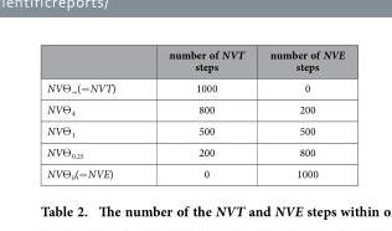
<table><thead><tr><td></td><td>number of NVT steps</td><td>number of NVE steps</td></tr></thead><tbody><tr><td>NVΘ <sub>∞</sub>(= NVT)</td><td>1000</td><td>0</td></tr><tr><td>NVΘ <sub>4</sub></td><td>800</td><td>200</td></tr><tr><td>NVΘ <sub>1</sub></td><td>500</td><td>500</td></tr><tr><td>NVΘ <sub>0.25</sub></td><td>200</td><td>800</td></tr><tr><td>NVΘ <sub>0</sub>(= NVE)</td><td>0</td><td>1000</td></tr></tbody></table>